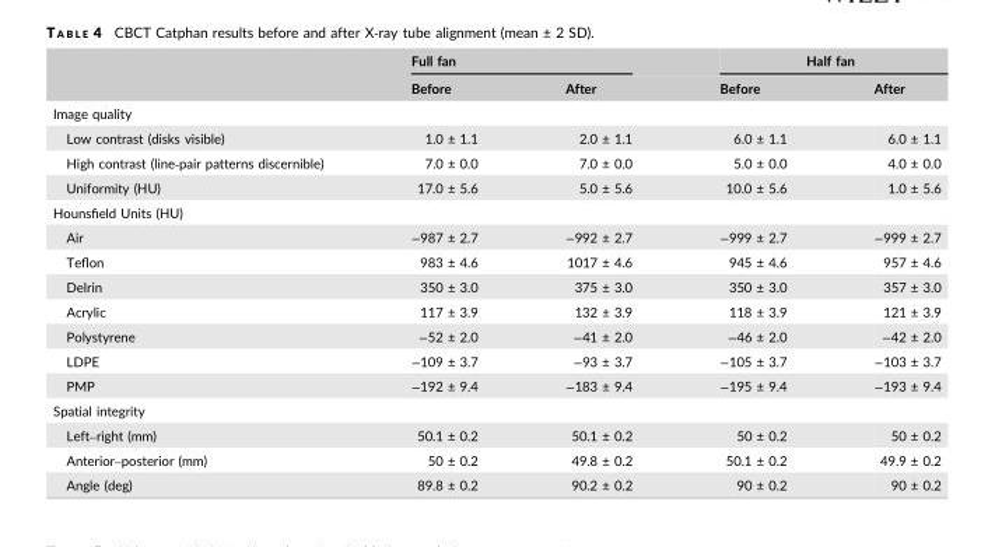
<table><thead><tr><td rowspan="2"></td><td colspan="2">Full fan</td><td colspan="2">Half fan</td></tr><tr><td>Before</td><td>After</td><td>Before</td><td>After</td></tr></thead><tbody><tr><td colspan="5">Image quality</td></tr><tr><td>Low contrast (disks visible)</td><td>1.0 ± 1.1</td><td>2.0 ± 1.1</td><td>6.0 ± 1.1</td><td>6.0 ± 1.1</td></tr><tr><td>High contrast (line‐pair patterns discernible)</td><td>7.0 ± 0.0</td><td>7.0 ± 0.0</td><td>5.0 ± 0.0</td><td>4.0 ± 0.0</td></tr><tr><td>Uniformity (HU)</td><td>17.0 ± 5.6</td><td>5.0 ± 5.6</td><td>10.0 ± 5.6</td><td>1.0 ± 5.6</td></tr><tr><td colspan="5">Hounsfield Units (HU)</td></tr><tr><td>Air</td><td>−987 ± 2.7</td><td>−992 ± 2.7</td><td>−999 ± 2.7</td><td>−999 ± 2.7</td></tr><tr><td>Teflon</td><td>983 ± 4.6</td><td>1017 ± 4.6</td><td>945 ± 4.6</td><td>957 ± 4.6</td></tr><tr><td>Delrin</td><td>350 ± 3.0</td><td>375 ± 3.0</td><td>350 ± 3.0</td><td>357 ± 3.0</td></tr><tr><td>Acrylic</td><td>117 ± 3.9</td><td>132 ± 3.9</td><td>118 ± 3.9</td><td>121 ± 3.9</td></tr><tr><td>Polystyrene</td><td>−52 ± 2.0</td><td>−41 ± 2.0</td><td>−46 ± 2.0</td><td>−42 ± 2.0</td></tr><tr><td>LDPE</td><td>−109 ± 3.7</td><td>−93 ± 3.7</td><td>−105 ± 3.7</td><td>−103 ± 3.7</td></tr><tr><td>PMP</td><td>−192 ± 9.4</td><td>−183 ± 9.4</td><td>−195 ± 9.4</td><td>−193 ± 9.4</td></tr><tr><td colspan="5">Spatial integrity</td></tr><tr><td>Left–right (mm)</td><td>50.1 ± 0.2</td><td>50.1 ± 0.2</td><td>50 ± 0.2</td><td>50 ± 0.2</td></tr><tr><td>Anterior–posterior (mm)</td><td>50 ± 0.2</td><td>49.8 ± 0.2</td><td>50.1 ± 0.2</td><td>49.9 ± 0.2</td></tr><tr><td>Angle (deg)</td><td>89.8 ± 0.2</td><td>90.2 ± 0.2</td><td>90 ± 0.2</td><td>90 ± 0.2</td></tr></tbody></table>